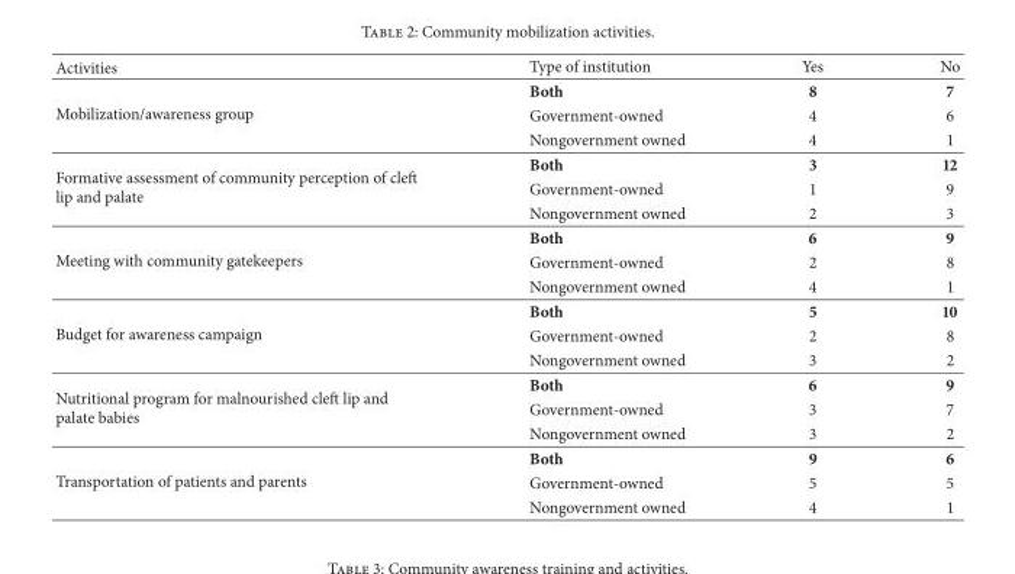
<table><thead><tr><td>Activities</td><td>Type of institution</td><td>Yes</td><td>No</td></tr></thead><tbody><tr><td rowspan="3">Mobilization/awareness group</td><td>Both</td><td>8</td><td>7</td></tr><tr><td>Government-owned</td><td>4</td><td>6</td></tr><tr><td>Nongovernment owned</td><td>4</td><td>1</td></tr><tr><td rowspan="3">Formative assessment of community perception of cleft lip and palate</td><td>Both</td><td>3</td><td>12</td></tr><tr><td>Government-owned</td><td>1</td><td>9</td></tr><tr><td>Nongovernment owned</td><td>2</td><td>3</td></tr><tr><td rowspan="3">Meeting with community gatekeepers</td><td>Both</td><td>6</td><td>9</td></tr><tr><td>Government-owned</td><td>2</td><td>8</td></tr><tr><td>Nongovernment owned</td><td>4</td><td>1</td></tr><tr><td rowspan="3">Budget for awareness campaign</td><td>Both</td><td>5</td><td>10</td></tr><tr><td>Government-owned</td><td>2</td><td>8</td></tr><tr><td>Nongovernment owned</td><td>3</td><td>2</td></tr><tr><td rowspan="3">Nutritional program for malnourished cleft lip and palate babies</td><td>Both</td><td>6</td><td>9</td></tr><tr><td>Government-owned</td><td>3</td><td>7</td></tr><tr><td>Nongovernment owned</td><td>3</td><td>2</td></tr><tr><td rowspan="3">Transportation of patients and parents</td><td>Both</td><td>9</td><td>6</td></tr><tr><td>Government-owned</td><td>5</td><td>5</td></tr><tr><td>Nongovernment owned</td><td>4</td><td>1</td></tr></tbody></table>